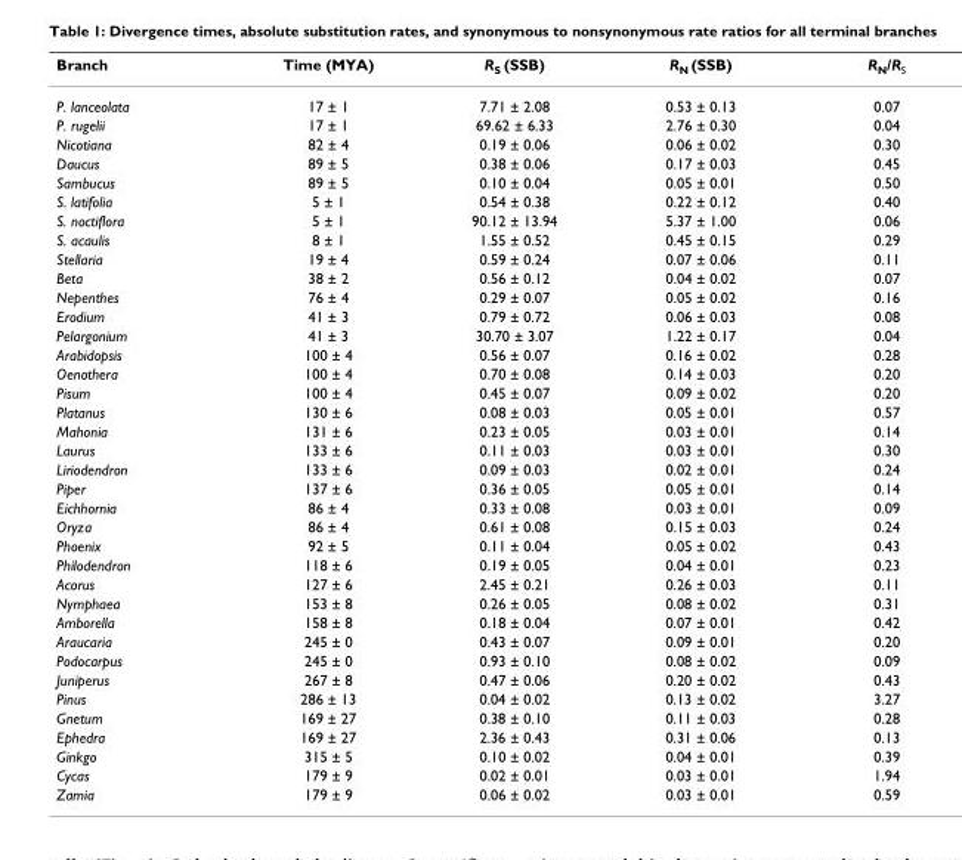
<table><thead><tr><td>Branch</td><td>Time (MYA)</td><td>R<sub>S</sub> (SSB)</td><td>R<sub>N</sub> (SSB)</td><td>R<sub>N</sub>/R<sub>S</sub></td></tr></thead><tbody><tr><td>P. lanceolata</td><td>17 ± 1</td><td>7.71 ± 2.08</td><td>0.53 ± 0.13</td><td>0.07</td></tr><tr><td>P. rugelii</td><td>17 ± 1</td><td>69.62 ± 6.33</td><td>2.76 ± 0.30</td><td>0.04</td></tr><tr><td>Nicotiana</td><td>82 ± 4</td><td>0.19 ± 0.06</td><td>0.06 ± 0.02</td><td>0.30</td></tr><tr><td>Daucus</td><td>89 ± 5</td><td>0.38 ± 0.06</td><td>0.17 ± 0.03</td><td>0.45</td></tr><tr><td>Sambucus</td><td>89 ± 5</td><td>0.10 ± 0.04</td><td>0.05 ± 0.01</td><td>0.50</td></tr><tr><td>S. latifolia</td><td>5 ± 1</td><td>0.54 ± 0.38</td><td>0.22 ± 0.12</td><td>0.40</td></tr><tr><td>S. noctiflora</td><td>5 ± 1</td><td>90.12 ± 13.94</td><td>5.37 ± 1.00</td><td>0.06</td></tr><tr><td>S. acaulis</td><td>8 ± 1</td><td>1.55 ± 0.52</td><td>0.45 ± 0.15</td><td>0.29</td></tr><tr><td>Stellaria</td><td>19 ± 4</td><td>0.59 ± 0.24</td><td>0.07 ± 0.06</td><td>0.11</td></tr><tr><td>Beta</td><td>38 ± 2</td><td>0.56 ± 0.12</td><td>0.04 ± 0.02</td><td>0.07</td></tr><tr><td>Nepenthes</td><td>76 ± 4</td><td>0.29 ± 0.07</td><td>0.05 ± 0.02</td><td>0.16</td></tr><tr><td>Erodium</td><td>41 ± 3</td><td>0.79 ± 0.72</td><td>0.06 ± 0.03</td><td>0.08</td></tr><tr><td>Pelargonium</td><td>41 ± 3</td><td>30.70 ± 3.07</td><td>1.22 ± 0.17</td><td>0.04</td></tr><tr><td>Arabidopsis</td><td>100 ± 4</td><td>0.56 ± 0.07</td><td>0.16 ± 0.02</td><td>0.28</td></tr><tr><td>Oenothera</td><td>100 ± 4</td><td>0.70 ± 0.08</td><td>0.14 ± 0.03</td><td>0.20</td></tr><tr><td>Pisum</td><td>100 ± 4</td><td>0.45 ± 0.07</td><td>0.09 ± 0.02</td><td>0.20</td></tr><tr><td>Platanus</td><td>130 ± 6</td><td>0.08 ± 0.03</td><td>0.05 ± 0.01</td><td>0.57</td></tr><tr><td>Mahonia</td><td>131 ± 6</td><td>0.23 ± 0.05</td><td>0.03 ± 0.01</td><td>0.14</td></tr><tr><td>Laurus</td><td>133 ± 6</td><td>0.11 ± 0.03</td><td>0.03 ± 0.01</td><td>0.30</td></tr><tr><td>Liriodendron</td><td>133 ± 6</td><td>0.09 ± 0.03</td><td>0.02 ± 0.01</td><td>0.24</td></tr><tr><td>Piper</td><td>137 ± 6</td><td>0.36 ± 0.05</td><td>0.05 ± 0.01</td><td>0.14</td></tr><tr><td>Eichhornia</td><td>86 ± 4</td><td>0.33 ± 0.08</td><td>0.03 ± 0.01</td><td>0.09</td></tr><tr><td>Oryza</td><td>86 ± 4</td><td>0.61 ± 0.08</td><td>0.15 ± 0.03</td><td>0.24</td></tr><tr><td>Phoenix</td><td>92 ± 5</td><td>0.11 ± 0.04</td><td>0.05 ± 0.02</td><td>0.43</td></tr><tr><td>Philodendron</td><td>118 ± 6</td><td>0.19 ± 0.05</td><td>0.04 ± 0.01</td><td>0.23</td></tr><tr><td>Acorus</td><td>127 ± 6</td><td>2.45 ± 0.21</td><td>0.26 ± 0.03</td><td>0.11</td></tr><tr><td>Nymphaea</td><td>153 ± 8</td><td>0.26 ± 0.05</td><td>0.08 ± 0.02</td><td>0.31</td></tr><tr><td>Amborella</td><td>158 ± 8</td><td>0.18 ± 0.04</td><td>0.07 ± 0.01</td><td>0.42</td></tr><tr><td>Araucaria</td><td>245 ± 0</td><td>0.43 ± 0.07</td><td>0.09 ± 0.01</td><td>0.20</td></tr><tr><td>Podocarpus</td><td>245 ± 0</td><td>0.93 ± 0.10</td><td>0.08 ± 0.02</td><td>0.09</td></tr><tr><td>Juniperus</td><td>267 ± 8</td><td>0.47 ± 0.06</td><td>0.20 ± 0.02</td><td>0.43</td></tr><tr><td>Pinus</td><td>286 ± 13</td><td>0.04 ± 0.02</td><td>0.13 ± 0.02</td><td>3.27</td></tr><tr><td>Gnetum</td><td>169 ± 27</td><td>0.38 ± 0.10</td><td>0.11 ± 0.03</td><td>0.28</td></tr><tr><td>Ephedra</td><td>169 ± 27</td><td>2.36 ± 0.43</td><td>0.31 ± 0.06</td><td>0.13</td></tr><tr><td>Ginkgo</td><td>315 ± 5</td><td>0.10 ± 0.02</td><td>0.04 ± 0.01</td><td>0.39</td></tr><tr><td>Cycas</td><td>179 ± 9</td><td>0.02 ± 0.01</td><td>0.03 ± 0.01</td><td>1.94</td></tr><tr><td>Zamia</td><td>179 ± 9</td><td>0.06 ± 0.02</td><td>0.03 ± 0.01</td><td>0.59</td></tr></tbody></table>